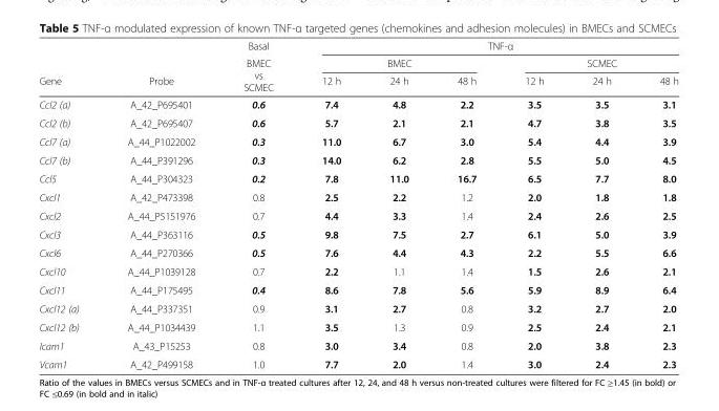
<table><thead><tr><td rowspan="3">Gene</td><td rowspan="3">Probe</td><td rowspan="3">Basal BMEC vs SCMEC</td><td colspan="6">TNF-α</td></tr><tr><td colspan="3">BMEC</td><td colspan="3">SCMEC</td></tr><tr><td>12 h</td><td>24 h</td><td>48 h</td><td>12 h</td><td>24 h</td><td>48 h</td></tr></thead><tbody><tr><td>Ccl2 (a)</td><td>A_42_P695401</td><td>0.6</td><td>7.4</td><td>4.8</td><td>2.2</td><td>3.5</td><td>3.5</td><td>3.1</td></tr><tr><td>Ccl2 (b)</td><td>A_42_P695407</td><td>0.6</td><td>5.7</td><td>2.1</td><td>2.1</td><td>4.7</td><td>3.8</td><td>3.5</td></tr><tr><td>Ccl7 (a)</td><td>A_44_P1022002</td><td>0.3</td><td>11.0</td><td>6.7</td><td>3.0</td><td>5.4</td><td>4.4</td><td>3.9</td></tr><tr><td>Ccl7 (b)</td><td>A_44_P391296</td><td>0.3</td><td>14.0</td><td>6.2</td><td>2.8</td><td>5.5</td><td>5.0</td><td>4.5</td></tr><tr><td>Ccl5</td><td>A_44_P304323</td><td>0.2</td><td>7.8</td><td>11.0</td><td>16.7</td><td>6.5</td><td>7.7</td><td>8.0</td></tr><tr><td>Cxcl1</td><td>A_42_P473398</td><td>0.8</td><td>2.5</td><td>2.2</td><td>1.2</td><td>2.0</td><td>1.8</td><td>1.8</td></tr><tr><td>Cxcl2</td><td>A_44_P5151976</td><td>0.7</td><td>4.4</td><td>3.3</td><td>1.4</td><td>2.4</td><td>2.6</td><td>2.5</td></tr><tr><td>Cxcl3</td><td>A_44_P363116</td><td>0.5</td><td>9.8</td><td>7.5</td><td>2.7</td><td>6.1</td><td>5.0</td><td>3.9</td></tr><tr><td>Cxcl6</td><td>A_44_P270366</td><td>0.5</td><td>7.6</td><td>4.4</td><td>4.3</td><td>2.2</td><td>5.5</td><td>6.6</td></tr><tr><td>Cxcl10</td><td>A_44_P1039128</td><td>0.7</td><td>2.2</td><td>1.1</td><td>1.4</td><td>1.5</td><td>2.6</td><td>2.1</td></tr><tr><td>Cxcl11</td><td>A_44_P175495</td><td>0.4</td><td>8.6</td><td>7.8</td><td>5.6</td><td>5.9</td><td>8.9</td><td>6.4</td></tr><tr><td>Cxcl12 (a)</td><td>A_44_P337351</td><td>0.9</td><td>3.1</td><td>2.7</td><td>0.8</td><td>3.2</td><td>2.7</td><td>2.0</td></tr><tr><td>Cxcl12 (b)</td><td>A_44_P1034439</td><td>1.1</td><td>3.5</td><td>1.3</td><td>0.9</td><td>2.5</td><td>2.4</td><td>2.1</td></tr><tr><td>Icam1</td><td>A_43_P15253</td><td>0.8</td><td>3.0</td><td>3.4</td><td>0.8</td><td>2.0</td><td>3.8</td><td>2.3</td></tr><tr><td>Vcam1</td><td>A_42_P499158</td><td>1.0</td><td>7.7</td><td>2.0</td><td>1.4</td><td>3.0</td><td>2.4</td><td>2.3</td></tr></tbody></table>